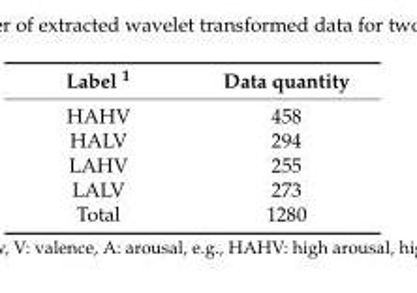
<table><thead><tr><td>Label <sup>1</sup></td><td>Data quantity</td></tr></thead><tbody><tr><td>HAHV</td><td>458</td></tr><tr><td>HALV</td><td>294</td></tr><tr><td>LAHV</td><td>255</td></tr><tr><td>LALV</td><td>273</td></tr><tr><td>Total</td><td>1280</td></tr></tbody></table>